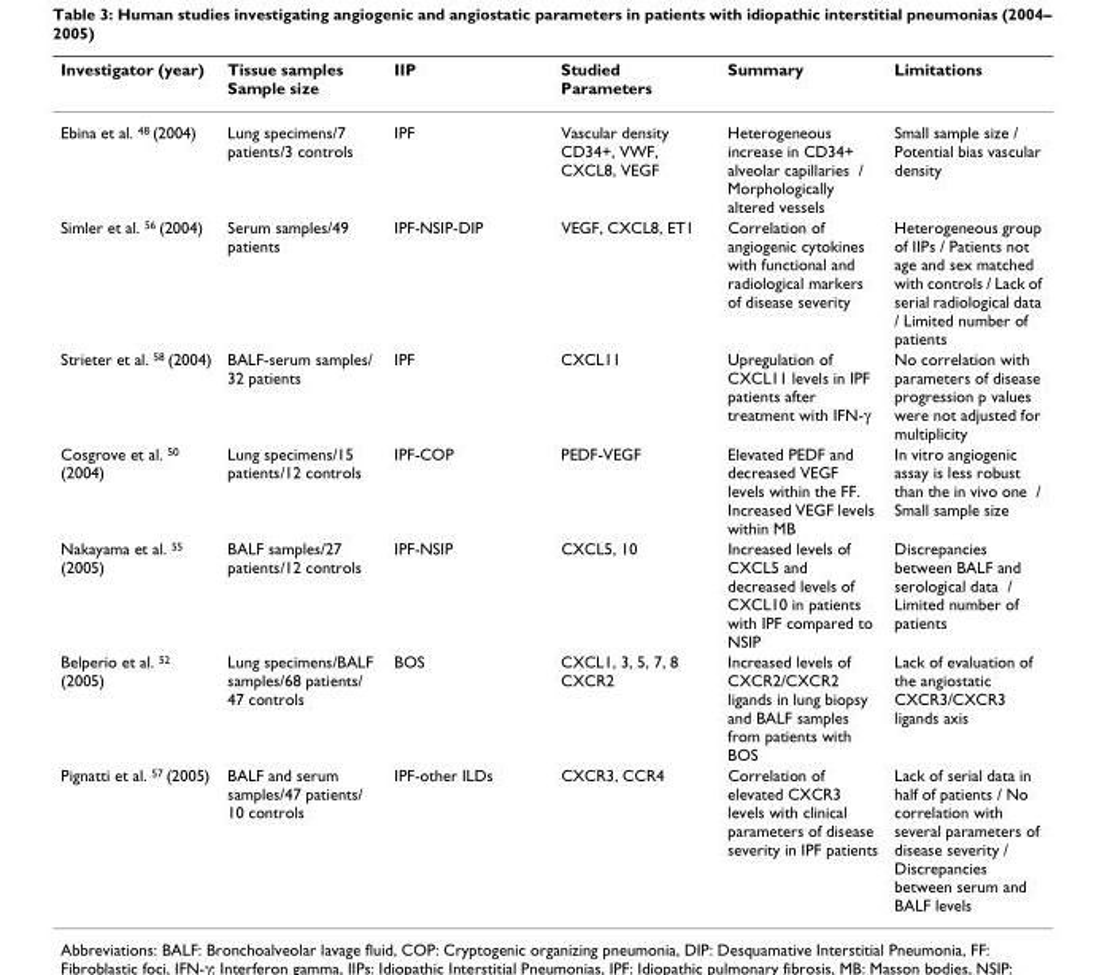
<table><thead><tr><td>Investigator (year)</td><td>Tissue samples Sample size</td><td>IIP</td><td>Studied Parameters</td><td>Summary</td><td>Limitations</td></tr></thead><tbody><tr><td>Ebina et al. <sup>48</sup> (2004)</td><td>Lung specimens/7 patients/3 controls</td><td>IPF</td><td>Vascular density CD34+, VWF, CXCL8, VEGF</td><td>Heterogeneous increase in CD34+ alveolar capillaries / Morphologically altered vessels</td><td>Small sample size / Potential bias vascular density</td></tr><tr><td>Simler et al. <sup>56</sup> (2004)</td><td>Serum samples/49 patients</td><td>IPF-NSIP-DIP</td><td>VEGF, CXCL8, ET1</td><td>Correlation of angiogenic cytokines with functional and radiological markers of disease severity</td><td>Heterogeneous group of IIPs / Patients not age and sex matched with controls / Lack of serial radiological data / Limited number of patients</td></tr><tr><td>Strieter et al. <sup>58</sup> (2004)</td><td>BALF-serum samples/ 32 patients</td><td>IPF</td><td>CXCL11</td><td>Upregulation of CXCL11 levels in IPF patients after treatment with IFN-γ</td><td>No correlation with parameters of disease progression p values were not adjusted for multiplicity</td></tr><tr><td>Cosgrove et al. <sup>50</sup> (2004)</td><td>Lung specimens/15 patients/12 controls</td><td>IPF-COP</td><td>PEDF-VEGF</td><td>Elevated PEDF and decreased VEGF levels within the FF. Increased VEGF levels within MB</td><td>In vitro angiogenic assay is less robust than the in vivo one / Small sample size</td></tr><tr><td>Nakayama et al. <sup>55</sup> (2005)</td><td>BALF samples/27 patients/12 controls</td><td>IPF-NSIP</td><td>CXCL5, 10</td><td>Increased levels of CXCL5 and decreased levels of CXCL10 in patients with IPF compared to NSIP</td><td>Discrepancies between BALF and serological data / Limited number of patients</td></tr><tr><td>Belperio et al. <sup>52</sup> (2005)</td><td>Lung specimens/BALF samples/68 patients/ 47 controls</td><td>BOS</td><td>CXCL1, 3, 5, 7, 8 CXCR2</td><td>Increased levels of CXCR2/CXCR2 ligands in lung biopsy and BALF samples from patients with BOS</td><td>Lack of evaluation of the angiostatic CXCR3/CXCR3 ligands axis</td></tr><tr><td>Pignatti et al. <sup>57</sup> (2005)</td><td>BALF and serum samples/47 patients/ 10 controls</td><td>IPF-other ILDs</td><td>CXCR3, CCR4</td><td>Correlation of elevated CXCR3 levels with clinical parameters of disease severity in IPF patients</td><td>Lack of serial data in half of patients / No correlation with several parameters of disease severity / Discrepancies between serum and BALF levels</td></tr></tbody></table>